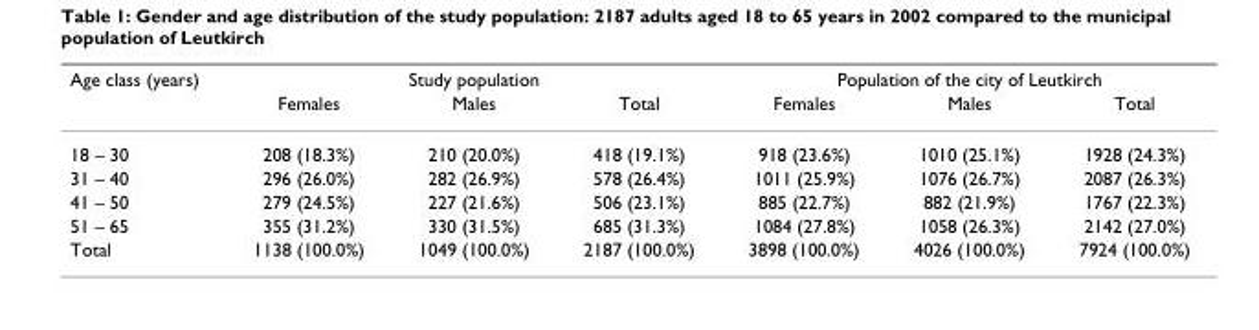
<table><thead><tr><td rowspan="2">Age class (years)</td><td colspan="3">Study population</td><td colspan="3">Population of the city of Leutkirch</td></tr><tr><td>Females</td><td>Males</td><td>Total</td><td>Females</td><td>Males</td><td>Total</td></tr></thead><tbody><tr><td>18 – 30</td><td>208 (18.3%)</td><td>210 (20.0%)</td><td>418 (19.1%)</td><td>918 (23.6%)</td><td>1010 (25.1%)</td><td>1928 (24.3%)</td></tr><tr><td>31 – 40</td><td>296 (26.0%)</td><td>282 (26.9%)</td><td>578 (26.4%)</td><td>1011 (25.9%)</td><td>1076 (26.7%)</td><td>2087 (26.3%)</td></tr><tr><td>41 – 50</td><td>279 (24.5%)</td><td>227 (21.6%)</td><td>506 (23.1%)</td><td>885 (22.7%)</td><td>882 (21.9%)</td><td>1767 (22.3%)</td></tr><tr><td>51 – 65</td><td>355 (31.2%)</td><td>330 (31.5%)</td><td>685 (31.3%)</td><td>1084 (27.8%)</td><td>1058 (26.3%)</td><td>2142 (27.0%)</td></tr><tr><td>Total</td><td>1138 (100.0%)</td><td>1049 (100.0%)</td><td>2187 (100.0%)</td><td>3898 (100.0%)</td><td>4026 (100.0%)</td><td>7924 (100.0%)</td></tr></tbody></table>